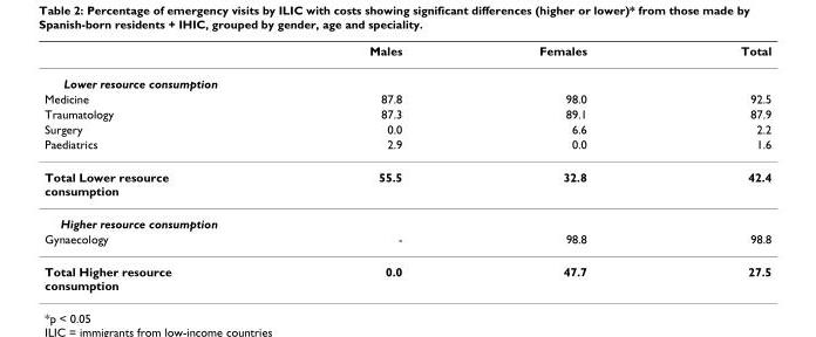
<table><thead><tr><td></td><td>Males</td><td>Females</td><td>Total</td></tr></thead><tbody><tr><td colspan="4">Lower resource consumption</td></tr><tr><td>Medicine</td><td>87.8</td><td>98.0</td><td>92.5</td></tr><tr><td>Traumatology</td><td>87.3</td><td>89.1</td><td>87.9</td></tr><tr><td>Surgery</td><td>0.0</td><td>6.6</td><td>2.2</td></tr><tr><td>Paediatrics</td><td>2.9</td><td>0.0</td><td>1.6</td></tr><tr><td>Total Lower resource consumption</td><td>55.5</td><td>32.8</td><td>42.4</td></tr><tr><td colspan="4">Higher resource consumption</td></tr><tr><td>Gynaecology</td><td>-</td><td>98.8</td><td>98.8</td></tr><tr><td>Total Higher resource consumption</td><td>0.0</td><td>47.7</td><td>27.5</td></tr></tbody></table>